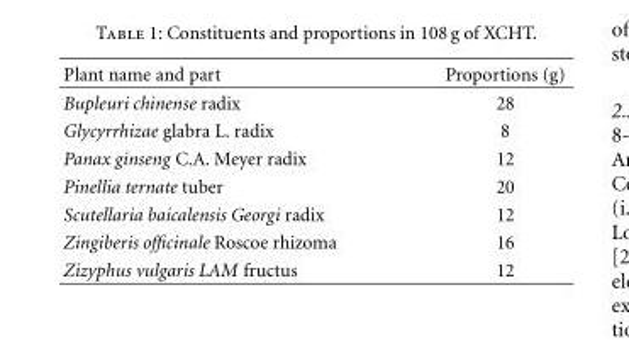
<table><thead><tr><td>Plant name and part</td><td>Proportions (g)</td></tr></thead><tbody><tr><td>Bupleuri chinense radix</td><td>28</td></tr><tr><td>Glycyrrhizae glabra L. radix</td><td>8</td></tr><tr><td>Panax ginseng C.A. Meyer radix</td><td>12</td></tr><tr><td>Pinellia ternate tuber</td><td>20</td></tr><tr><td>Scutellaria baicalensis Georgi radix</td><td>12</td></tr><tr><td>Zingiberis officinale Roscoe rhizoma</td><td>16</td></tr><tr><td>Zizyphus vulgaris LAM fructus</td><td>12</td></tr></tbody></table>